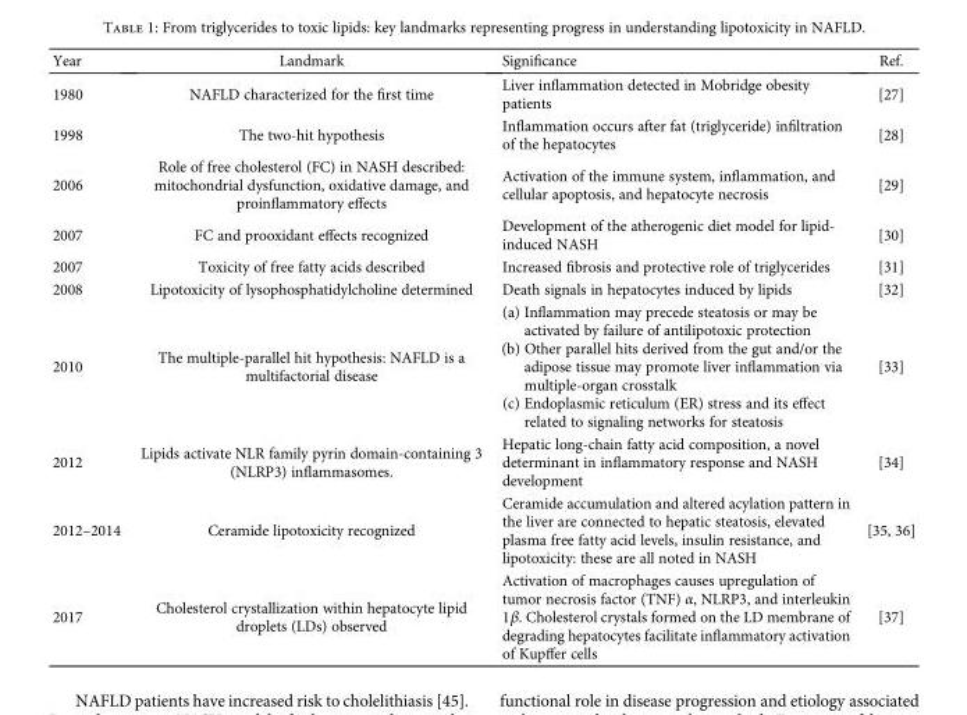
<table><thead><tr><td>Year</td><td>Landmark</td><td>Significance</td><td>Ref.</td></tr></thead><tbody><tr><td>1980</td><td>NAFLD characterized for the first time</td><td>Liver inflammation detected in Mobridge obesity patients</td><td>[27]</td></tr><tr><td>1998</td><td>The two-hit hypothesis</td><td>Inflammation occurs after fat (triglyceride) infiltration of the hepatocytes</td><td>[28]</td></tr><tr><td>2006</td><td>Role of free cholesterol (FC) in NASH described: mitochondrial dysfunction, oxidative damage, and proinflammatory effects</td><td>Activation of the immune system, inflammation, and cellular apoptosis, and hepatocyte necrosis</td><td>[29]</td></tr><tr><td>2007</td><td>FC and prooxidant effects recognized</td><td>Development of the atherogenic diet model for lipid- induced NASH</td><td>[30]</td></tr><tr><td>2007</td><td>Toxicity of free fatty acids described</td><td>Increased fibrosis and protective role of triglycerides</td><td>[31]</td></tr><tr><td>2008</td><td>Lipotoxicity of lysophosphatidylcholine determined</td><td>Death signals in hepatocytes induced by lipids</td><td>[32]</td></tr><tr><td>2010</td><td>The multiple-parallel hit hypothesis: NAFLD is a multifactorial disease</td><td>(a) Inflammation may precede steatosis or may be activated by failure of antilipotoxic protection (b) Other parallel hits derived from the gut and/or the adipose tissue may promote liver inflammation via multiple-organ crosstalk (c) Endoplasmic reticulum (ER) stress and its effect related to signaling networks for steatosis</td><td>[33]</td></tr><tr><td>2012</td><td>Lipids activate NLR family pyrin domain-containing 3 (NLRP3) inflammasomes.</td><td>Hepatic long-chain fatty acid composition, a novel determinant in inflammatory response and NASH development</td><td>[34]</td></tr><tr><td>2012–2014</td><td>Ceramide lipotoxicity recognized</td><td>Ceramide accumulation and altered acylation pattern in the liver are connected to hepatic steatosis, elevated plasma free fatty acid levels, insulin resistance, and lipotoxicity: these are all noted in NASH</td><td>[35, 36]</td></tr><tr><td>2017</td><td>Cholesterol crystallization within hepatocyte lipid droplets (LDs) observed</td><td>Activation of macrophages causes upregulation of tumor necrosis factor (TNF) α, NLRP3, and interleukin 1β. Cholesterol crystals formed on the LD membrane of degrading hepatocytes facilitate inflammatory activation of Kupffer cells</td><td>[37]</td></tr></tbody></table>